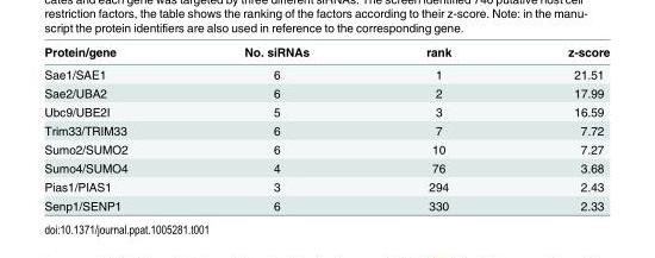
<table><thead><tr><td>Protein/gene</td><td>No. siRNAs</td><td>rank</td><td>z-score</td></tr></thead><tbody><tr><td>Sae1/SAE1</td><td>6</td><td>1</td><td>21.51</td></tr><tr><td>Sae2/UBA2</td><td>6</td><td>2</td><td>17.99</td></tr><tr><td>Ubc9/UBE2I</td><td>5</td><td>3</td><td>16.59</td></tr><tr><td>Trim33/TRIM33</td><td>6</td><td>7</td><td>7.72</td></tr><tr><td>Sumo2/SUMO2</td><td>6</td><td>10</td><td>7.27</td></tr><tr><td>Sumo4/SUMO4</td><td>4</td><td>76</td><td>3.68</td></tr><tr><td>Pias1/PIAS1</td><td>3</td><td>294</td><td>2.43</td></tr><tr><td>Senp1/SENP1</td><td>6</td><td>330</td><td>2.33</td></tr></tbody></table>